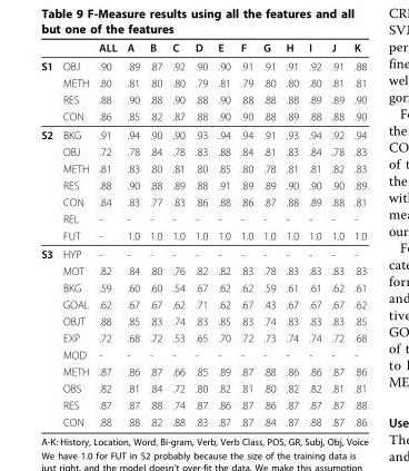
<table><thead><tr><td></td><td></td><td>ALL</td><td>A</td><td>B</td><td>C</td><td>D</td><td>E</td><td>F</td><td>G</td><td>H</td><td>I</td><td>J</td><td>K</td></tr></thead><tbody><tr><td rowspan="4">S1</td><td>OBJ</td><td>.90</td><td>.89</td><td>.87</td><td>.92</td><td>.90</td><td>.90</td><td>.91</td><td>.91</td><td>.91</td><td>.92</td><td>.91</td><td>.88</td></tr><tr><td>METH</td><td>.80</td><td>.81</td><td>.80</td><td>.80</td><td>.79</td><td>.81</td><td>.79</td><td>.80</td><td>.80</td><td>.80</td><td>.81</td><td>.81</td></tr><tr><td>RES</td><td>.88</td><td>.90</td><td>.88</td><td>.90</td><td>.88</td><td>.90</td><td>.88</td><td>.88</td><td>.88</td><td>.89</td><td>.89</td><td>.90</td></tr><tr><td>CON</td><td>.86</td><td>.85</td><td>.82</td><td>.87</td><td>.88</td><td>.90</td><td>.90</td><td>.88</td><td>.89</td><td>.88</td><td>.88</td><td>.90</td></tr><tr><td rowspan="7">S2</td><td>BKG</td><td>.91</td><td>.94</td><td>.90</td><td>.90</td><td>.93</td><td>.94</td><td>.94</td><td>.91</td><td>.93</td><td>.94</td><td>.92</td><td>.94</td></tr><tr><td>OBJ</td><td>.72</td><td>.78</td><td>.84</td><td>.78</td><td>.83</td><td>.88</td><td>.84</td><td>.81</td><td>.83</td><td>.84</td><td>.78</td><td>.83</td></tr><tr><td>METH</td><td>.81</td><td>.83</td><td>.80</td><td>.81</td><td>.80</td><td>.85</td><td>.80</td><td>.78</td><td>.81</td><td>.81</td><td>.82</td><td>.83</td></tr><tr><td>RES</td><td>.88</td><td>.90</td><td>.88</td><td>.89</td><td>.88</td><td>.91</td><td>.89</td><td>.89</td><td>.90</td><td>.90</td><td>.90</td><td>.89</td></tr><tr><td>CON</td><td>.84</td><td>.83</td><td>.77</td><td>.83</td><td>.86</td><td>.88</td><td>.86</td><td>.87</td><td>.88</td><td>.89</td><td>.88</td><td>.81</td></tr><tr><td>REL</td><td>-</td><td>-</td><td>-</td><td>-</td><td>-</td><td>-</td><td>-</td><td>-</td><td>-</td><td>-</td><td>-</td><td>-</td></tr><tr><td>FUT</td><td>-</td><td>1.0</td><td>1.0</td><td>1.0</td><td>1.0</td><td>1.0</td><td>1.0</td><td>1.0</td><td>1.0</td><td>1.0</td><td>1.0</td><td>1.0</td></tr><tr><td rowspan="11">S3</td><td>HYP</td><td>-</td><td>-</td><td>-</td><td>-</td><td>-</td><td>-</td><td>-</td><td>-</td><td>-</td><td>-</td><td>-</td><td>-</td></tr><tr><td>MOT</td><td>.82</td><td>.84</td><td>.80</td><td>.76</td><td>.82</td><td>.82</td><td>.83</td><td>.78</td><td>.83</td><td>.83</td><td>.83</td><td>.83</td></tr><tr><td>BKG</td><td>.59</td><td>.60</td><td>.60</td><td>.54</td><td>.67</td><td>.62</td><td>.62</td><td>.59</td><td>.61</td><td>.61</td><td>.62</td><td>.61</td></tr><tr><td>GOAL</td><td>.62</td><td>.67</td><td>.67</td><td>.62</td><td>.71</td><td>.62</td><td>.67</td><td>.43</td><td>.67</td><td>.67</td><td>.67</td><td>.62</td></tr><tr><td>OBJT</td><td>.88</td><td>.85</td><td>.83</td><td>.74</td><td>.83</td><td>.85</td><td>.83</td><td>.74</td><td>.83</td><td>.83</td><td>.83</td><td>.85</td></tr><tr><td>EXP</td><td>.72</td><td>.68</td><td>.72</td><td>.53</td><td>.65</td><td>.70</td><td>.72</td><td>.73</td><td>.74</td><td>.74</td><td>.72</td><td>.68</td></tr><tr><td>MOD</td><td>-</td><td>-</td><td>-</td><td>-</td><td>-</td><td>-</td><td>-</td><td>-</td><td>-</td><td>-</td><td>-</td><td>-</td></tr><tr><td>METH</td><td>.87</td><td>.86</td><td>.87</td><td>.66</td><td>.85</td><td>.89</td><td>.87</td><td>.88</td><td>.86</td><td>.86</td><td>.87</td><td>.86</td></tr><tr><td>OBS</td><td>.82</td><td>.81</td><td>.84</td><td>.72</td><td>.80</td><td>.82</td><td>.81</td><td>.80</td><td>.82</td><td>.82</td><td>.81</td><td>.81</td></tr><tr><td>RES</td><td>.87</td><td>.87</td><td>.88</td><td>.74</td><td>.87</td><td>.86</td><td>.87</td><td>.86</td><td>.87</td><td>.87</td><td>.87</td><td>.88</td></tr><tr><td>CON</td><td>.88</td><td>.88</td><td>.82</td><td>.88</td><td>.83</td><td>.87</td><td>.87</td><td>.84</td><td>.87</td><td>.88</td><td>.87</td><td>.86</td></tr></tbody></table>